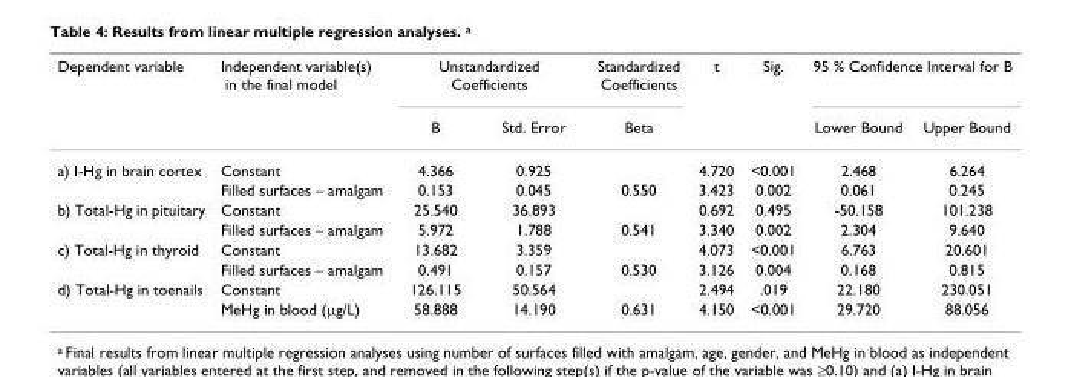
<table><thead><tr><td rowspan="2">Dependent variable</td><td rowspan="2">Independent variable(s) in the final model</td><td colspan="2">Unstandardized Coefficients</td><td rowspan="2">Standardized Coefficients Beta</td><td rowspan="2">t</td><td rowspan="2">Sig.</td><td colspan="2">95 % Confidence Interval for B</td></tr><tr><td>B</td><td>Std. Error</td><td>Lower Bound</td><td>Upper Bound</td></tr></thead><tbody><tr><td rowspan="2">a) I-Hg in brain cortex</td><td>Constant</td><td>4.366</td><td>0.925</td><td></td><td>4.720</td><td>&lt;0.001</td><td>2.468</td><td>6.264</td></tr><tr><td>Filled surfaces – amalgam</td><td>0.153</td><td>0.045</td><td>0.550</td><td>3.423</td><td>0.002</td><td>0.061</td><td>0.245</td></tr><tr><td rowspan="2">b) Total-Hg in pituitary</td><td>Constant</td><td>25.540</td><td>36.893</td><td></td><td>0.692</td><td>0.495</td><td>-50.158</td><td>101.238</td></tr><tr><td>Filled surfaces – amalgam</td><td>5.972</td><td>1.788</td><td>0.541</td><td>3.340</td><td>0.002</td><td>2.304</td><td>9.640</td></tr><tr><td rowspan="2">c) Total-Hg in thyroid</td><td>Constant</td><td>13.682</td><td>3.359</td><td></td><td>4.073</td><td>&lt;0.001</td><td>6.763</td><td>20.601</td></tr><tr><td>Filled surfaces – amalgam</td><td>0.491</td><td>0.157</td><td>0.530</td><td>3.126</td><td>0.004</td><td>0.168</td><td>0.815</td></tr><tr><td rowspan="2">d) Total-Hg in toenails</td><td>Constant</td><td>126.115</td><td>50.564</td><td></td><td>2.494</td><td>.019</td><td>22.180</td><td>230.051</td></tr><tr><td>MeHg in blood (µg/L)</td><td>58.888</td><td>14.190</td><td>0.631</td><td>4.150</td><td>&lt;0.001</td><td>29.720</td><td>88.056</td></tr></tbody></table>